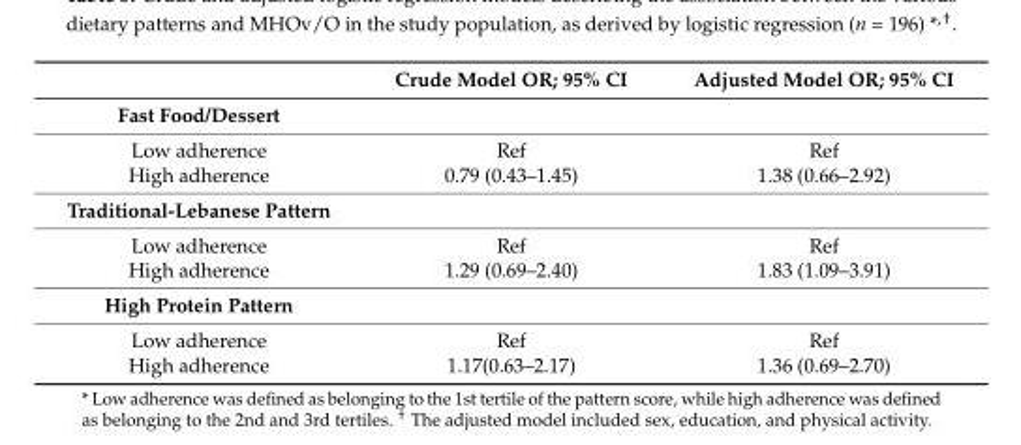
<table><thead><tr><td></td><td>Crude Model OR; 95% CI</td><td>Adjusted Model OR; 95% CI</td></tr></thead><tbody><tr><td colspan="3">Fast Food/Dessert</td></tr><tr><td>Low adherence</td><td>Ref</td><td>Ref</td></tr><tr><td>High adherence</td><td>0.79 (0.43–1.45)</td><td>1.38 (0.66–2.92)</td></tr><tr><td colspan="3">Traditional-Lebanese Pattern</td></tr><tr><td>Low adherence</td><td>Ref</td><td>Ref</td></tr><tr><td>High adherence</td><td>1.29 (0.69–2.40)</td><td>1.83 (1.09–3.91)</td></tr><tr><td colspan="3">High Protein Pattern</td></tr><tr><td>Low adherence</td><td>Ref</td><td>Ref</td></tr><tr><td>High adherence</td><td>1.17(0.63–2.17)</td><td>1.36 (0.69–2.70)</td></tr></tbody></table>